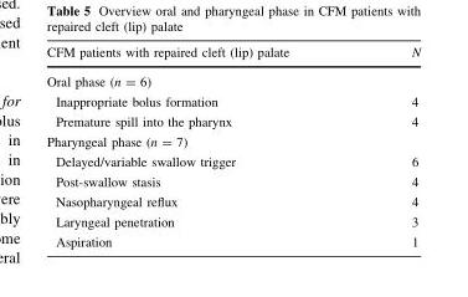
<table><thead><tr><td>CFM patients with repaired cleft (lip) palate</td><td>N</td></tr></thead><tbody><tr><td colspan="2">Oral phase (n = 6)</td></tr><tr><td>Inappropriate bolus formation</td><td>4</td></tr><tr><td>Premature spill into the pharynx</td><td>4</td></tr><tr><td colspan="2">Pharyngeal phase (n = 7)</td></tr><tr><td>Delayed/variable swallow trigger</td><td>6</td></tr><tr><td>Post-swallow stasis</td><td>4</td></tr><tr><td>Nasopharyngeal reflux</td><td>4</td></tr><tr><td>Laryngeal penetration</td><td>3</td></tr><tr><td>Aspiration</td><td>1</td></tr></tbody></table>